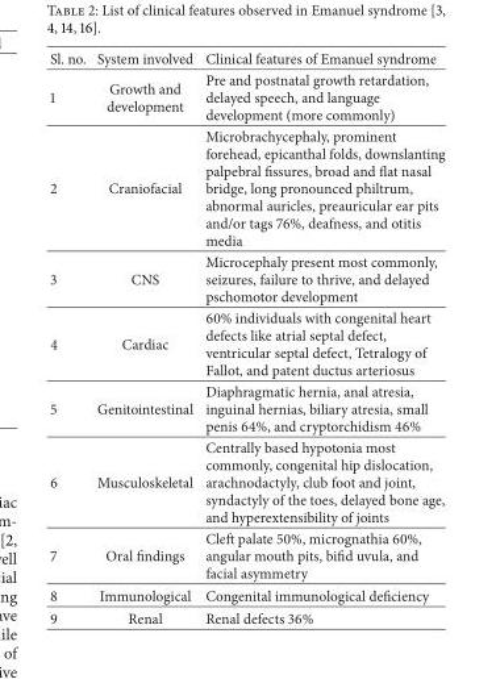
<table><thead><tr><td>Sl. no.</td><td>System involved</td><td>Clinical features of Emanuel syndrome</td></tr></thead><tbody><tr><td>1</td><td>Growth and development</td><td>Pre and postnatal growth retardation, delayed speech, and language development (more commonly)</td></tr><tr><td>2</td><td>Craniofacial</td><td>Microbrachycephaly, prominent forehead, epicanthal folds, downslanting palpebral fissures, broad and flat nasal bridge, long pronounced philtrum, abnormal auricles, preauricular ear pits and/or tags 76%, deafness, and otitis media</td></tr><tr><td>3</td><td>CNS</td><td>Microcephaly present most commonly, seizures, failure to thrive, and delayed pschomotor development</td></tr><tr><td>4</td><td>Cardiac</td><td>60% individuals with congenital heart defects like atrial septal defect, ventricular septal defect, Tetralogy of Fallot, and patent ductus arteriosus</td></tr><tr><td>5</td><td>Genitointestinal</td><td>Diaphragmatic hernia, anal atresia, inguinal hernias, biliary atresia, small penis 64%, and cryptorchidism 46%</td></tr><tr><td>6</td><td>Musculoskeletal</td><td>Centrally based hypotonia most commonly, congenital hip dislocation, arachnodactyly, club foot and joint, syndactyly of the toes, delayed bone age, and hyperextensibility of joints</td></tr><tr><td>7</td><td>Oral findings</td><td>Cleft palate 50%, micrognathia 60%, angular mouth pits, bifid uvula, and facial asymmetry</td></tr><tr><td>8</td><td>Immunological</td><td>Congenital immunological deficiency</td></tr><tr><td>9</td><td>Renal</td><td>Renal defects 36%</td></tr></tbody></table>